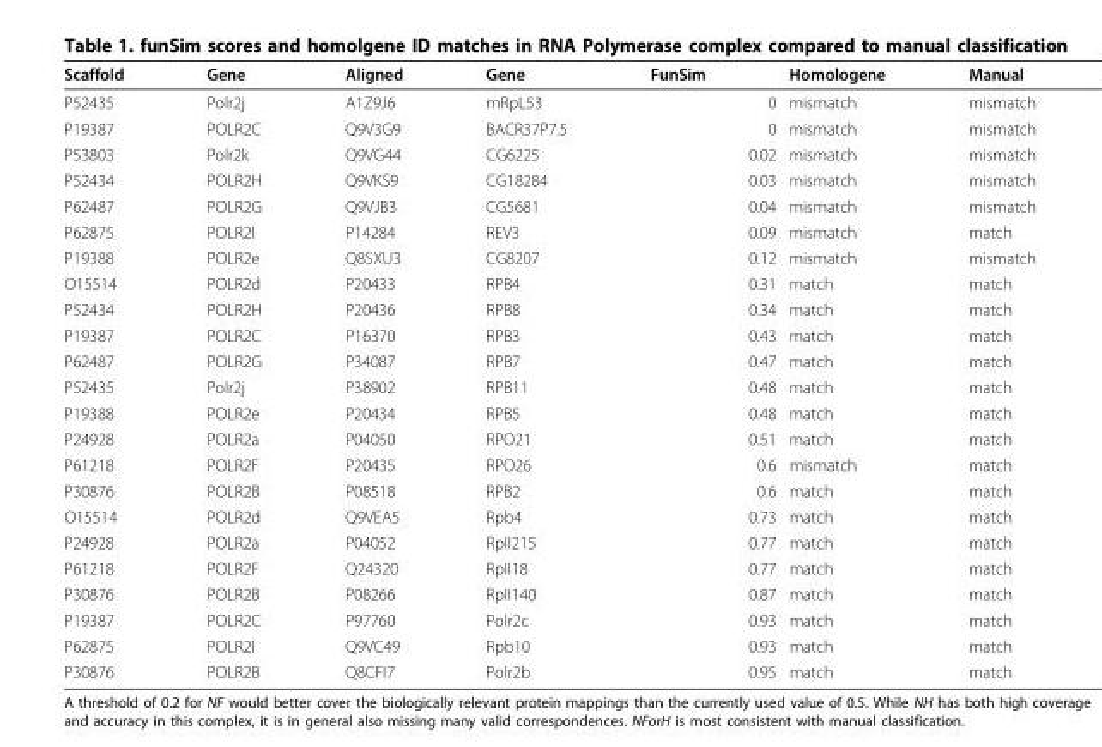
<table><thead><tr><td>Scaffold</td><td>Gene</td><td>Aligned</td><td>Gene</td><td>FunSim</td><td>Homologene</td><td>Manual</td></tr></thead><tbody><tr><td>P52435</td><td>Polr2j</td><td>A1Z9J6</td><td>mRpL53</td><td>0</td><td>mismatch</td><td>mismatch</td></tr><tr><td>P19387</td><td>POLR2C</td><td>Q9V3G9</td><td>BACR37P7.5</td><td>0</td><td>mismatch</td><td>mismatch</td></tr><tr><td>P53803</td><td>Polr2k</td><td>Q9VG44</td><td>CG6225</td><td>0.02</td><td>mismatch</td><td>mismatch</td></tr><tr><td>P52434</td><td>POLR2H</td><td>Q9VKS9</td><td>CG18284</td><td>0.03</td><td>mismatch</td><td>mismatch</td></tr><tr><td>P62487</td><td>POLR2G</td><td>Q9VJB3</td><td>CG5681</td><td>0.04</td><td>mismatch</td><td>mismatch</td></tr><tr><td>P62875</td><td>POLR2l</td><td>P14284</td><td>REV3</td><td>0.09</td><td>mismatch</td><td>match</td></tr><tr><td>P19388</td><td>POLR2e</td><td>Q8SXU3</td><td>CG8207</td><td>0.12</td><td>mismatch</td><td>mismatch</td></tr><tr><td>O15514</td><td>POLR2d</td><td>P20433</td><td>RPB4</td><td>0.31</td><td>match</td><td>match</td></tr><tr><td>P52434</td><td>POLR2H</td><td>P20436</td><td>RPB8</td><td>0.34</td><td>match</td><td>match</td></tr><tr><td>P19387</td><td>POLR2C</td><td>P16370</td><td>RPB3</td><td>0.43</td><td>match</td><td>match</td></tr><tr><td>P62487</td><td>POLR2G</td><td>P34087</td><td>RPB7</td><td>0.47</td><td>match</td><td>match</td></tr><tr><td>P52435</td><td>Polr2j</td><td>P38902</td><td>RPB11</td><td>0.48</td><td>match</td><td>match</td></tr><tr><td>P19388</td><td>POLR2e</td><td>P20434</td><td>RPB5</td><td>0.48</td><td>match</td><td>match</td></tr><tr><td>P24928</td><td>POLR2a</td><td>P04050</td><td>RPO21</td><td>0.51</td><td>match</td><td>match</td></tr><tr><td>P61218</td><td>POLR2F</td><td>P20435</td><td>RPO26</td><td>0.6</td><td>mismatch</td><td>match</td></tr><tr><td>P30876</td><td>POLR2B</td><td>P08518</td><td>RPB2</td><td>0.6</td><td>match</td><td>match</td></tr><tr><td>O15514</td><td>POLR2d</td><td>Q9VEA5</td><td>Rpb4</td><td>0.73</td><td>match</td><td>match</td></tr><tr><td>P24928</td><td>POLR2a</td><td>P04052</td><td>RpII215</td><td>0.77</td><td>match</td><td>match</td></tr><tr><td>P61218</td><td>POLR2F</td><td>Q24320</td><td>RpII18</td><td>0.77</td><td>match</td><td>match</td></tr><tr><td>P30876</td><td>POLR2B</td><td>P08266</td><td>RpII140</td><td>0.87</td><td>match</td><td>match</td></tr><tr><td>P19387</td><td>POLR2C</td><td>P97760</td><td>Polr2c</td><td>0.93</td><td>match</td><td>match</td></tr><tr><td>P62875</td><td>POLR2l</td><td>Q9VC49</td><td>Rpb10</td><td>0.93</td><td>match</td><td>match</td></tr><tr><td>P30876</td><td>POLR2B</td><td>Q8CFI7</td><td>Polr2b</td><td>0.95</td><td>match</td><td>match</td></tr></tbody></table>